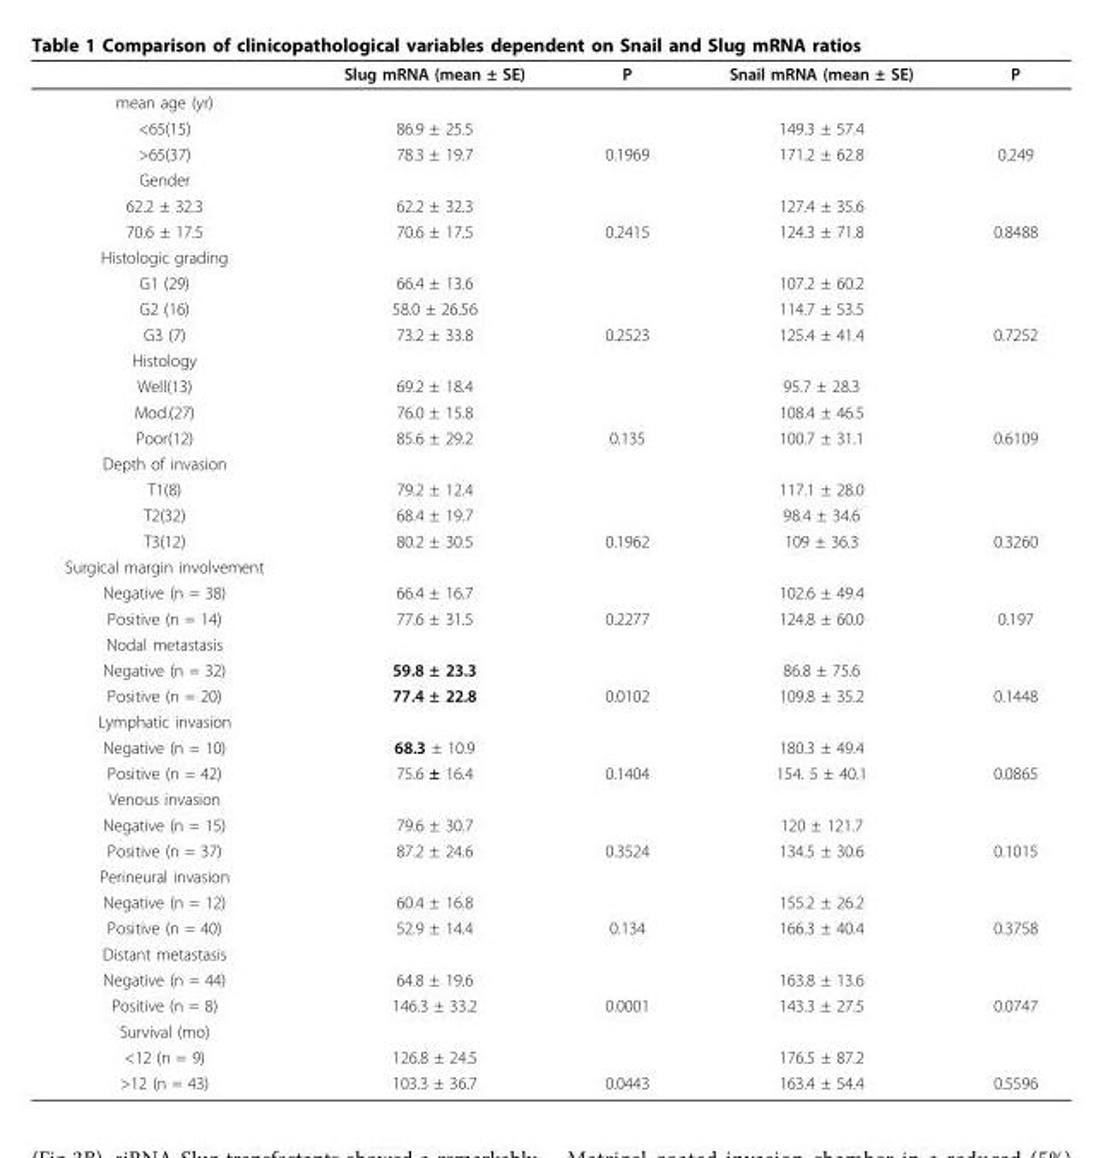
<table><thead><tr><td></td><td>Slug mRNA (mean ± SE)</td><td>P</td><td>Snail mRNA (mean ± SE)</td><td>P</td></tr></thead><tbody><tr><td colspan="5">mean age (yr)</td></tr><tr><td>&lt;65(15)</td><td>86.9 ± 25.5</td><td></td><td>149.3 ± 57.4</td><td></td></tr><tr><td>&gt;65(37)</td><td>78.3 ± 19.7</td><td>0.1969</td><td>171.2 ± 62.8</td><td>0.249</td></tr><tr><td colspan="5">Gender</td></tr><tr><td>62.2 ± 32.3</td><td>62.2 ± 32.3</td><td></td><td>127.4 ± 35.6</td><td></td></tr><tr><td>70.6 ± 17.5</td><td>70.6 ± 17.5</td><td>0.2415</td><td>124.3 ± 71.8</td><td>0.8488</td></tr><tr><td colspan="5">Histologic grading</td></tr><tr><td>G1 (29)</td><td>66.4 ± 13.6</td><td></td><td>107.2 ± 60.2</td><td></td></tr><tr><td>G2 (16)</td><td>58.0 ± 26.56</td><td></td><td>114.7 ± 53.5</td><td></td></tr><tr><td>G3 (7)</td><td>73.2 ± 33.8</td><td>0.2523</td><td>125.4 ± 41.4</td><td>0.7252</td></tr><tr><td colspan="5">Histology</td></tr><tr><td>Well(13)</td><td>69.2 ± 18.4</td><td></td><td>95.7 ± 28.3</td><td></td></tr><tr><td>Mod.(27)</td><td>76.0 ± 15.8</td><td></td><td>108.4 ± 46.5</td><td></td></tr><tr><td>Poor(12)</td><td>85.6 ± 29.2</td><td>0.135</td><td>100.7 ± 31.1</td><td>0.6109</td></tr><tr><td colspan="5">Depth of invasion</td></tr><tr><td>T1(8)</td><td>79.2 ± 12.4</td><td></td><td>117.1 ± 28.0</td><td></td></tr><tr><td>T2(32)</td><td>68.4 ± 19.7</td><td></td><td>98.4 ± 34.6</td><td></td></tr><tr><td>T3(12)</td><td>80.2 ± 30.5</td><td>0.1962</td><td>109 ± 36.3</td><td>0.3260</td></tr><tr><td colspan="5">Surgical margin involvement</td></tr><tr><td>Negative (n = 38)</td><td>66.4 ± 16.7</td><td></td><td>102.6 ± 49.4</td><td></td></tr><tr><td>Positive (n = 14)</td><td>77.6 ± 31.5</td><td>0.2277</td><td>124.8 ± 60.0</td><td>0.197</td></tr><tr><td colspan="5">Nodal metastasis</td></tr><tr><td>Negative (n = 32)</td><td>59.8 ± 23.3</td><td></td><td>86.8 ± 75.6</td><td></td></tr><tr><td>Positive (n = 20)</td><td>77.4 ± 22.8</td><td>0.0102</td><td>109.8 ± 35.2</td><td>0.1448</td></tr><tr><td colspan="5">Lymphatic invasion</td></tr><tr><td>Negative (n = 10)</td><td>68.3 ± 10.9</td><td></td><td>180.3 ± 49.4</td><td></td></tr><tr><td>Positive (n = 42)</td><td>75.6 ± 16.4</td><td>0.1404</td><td>154. 5 ± 40.1</td><td>0.0865</td></tr><tr><td colspan="5">Venous invasion</td></tr><tr><td>Negative (n = 15)</td><td>79.6 ± 30.7</td><td></td><td>120 ± 121.7</td><td></td></tr><tr><td>Positive (n = 37)</td><td>87.2 ± 24.6</td><td>0.3524</td><td>134.5 ± 30.6</td><td>0.1015</td></tr><tr><td colspan="5">Perineural invasion</td></tr><tr><td>Negative (n = 12)</td><td>60.4 ± 16.8</td><td></td><td>155.2 ± 26.2</td><td></td></tr><tr><td>Positive (n = 40)</td><td>52.9 ± 14.4</td><td>0.134</td><td>166.3 ± 40.4</td><td>0.3758</td></tr><tr><td colspan="5">Distant metastasis</td></tr><tr><td>Negative (n = 44)</td><td>64.8 ± 19.6</td><td></td><td>163.8 ± 13.6</td><td></td></tr><tr><td>Positive (n = 8)</td><td>146.3 ± 33.2</td><td>0.0001</td><td>143.3 ± 27.5</td><td>0.0747</td></tr><tr><td colspan="5">Survival (mo)</td></tr><tr><td>&lt;12 (n = 9)</td><td>126.8 ± 24.5</td><td></td><td>176.5 ± 87.2</td><td></td></tr><tr><td>&gt;12 (n = 43)</td><td>103.3 ± 36.7</td><td>0.0443</td><td>163.4 ± 54.4</td><td>0.5596</td></tr></tbody></table>